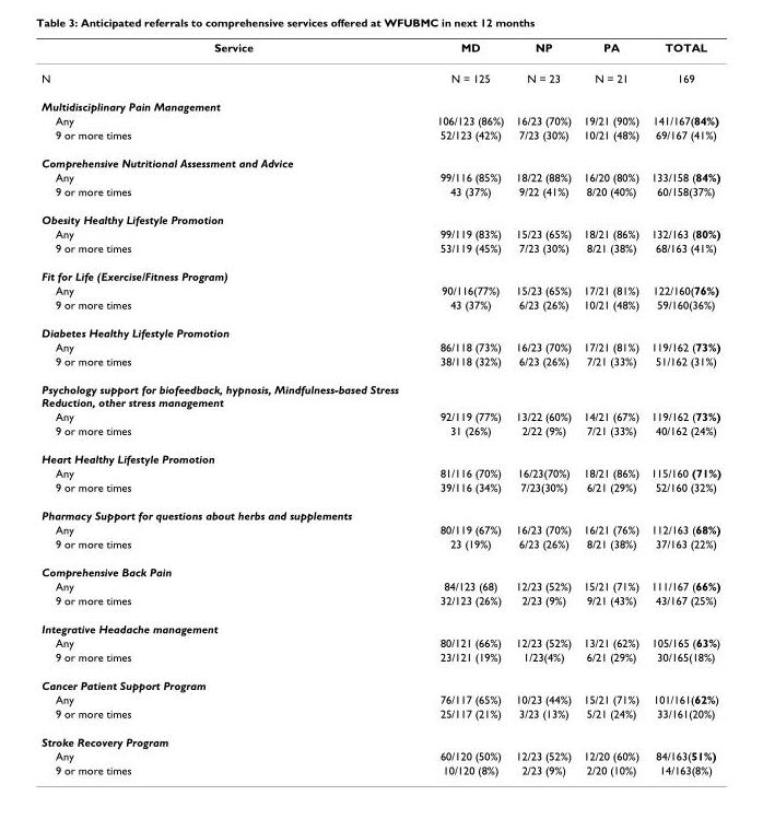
<table><thead><tr><td>Service</td><td>MD</td><td>NP</td><td>PA</td><td>TOTAL</td></tr></thead><tbody><tr><td>N</td><td>N = 125</td><td>N = 23</td><td>N = 21</td><td>169</td></tr><tr><td colspan="5">Multidisciplinary Pain Management</td></tr><tr><td>Any</td><td>106/123 (86%)</td><td>16/23 (70%)</td><td>19/21 (90%)</td><td>141/167(84%)</td></tr><tr><td>9 or more times</td><td>52/123 (42%)</td><td>7/23 (30%)</td><td>10/21 (48%)</td><td>69/167 (41%)</td></tr><tr><td colspan="5">Comprehensive Nutritional Assessment and Advice</td></tr><tr><td>Any</td><td>99/116 (85%)</td><td>18/22 (88%)</td><td>16/20 (80%)</td><td>133/158 (84%)</td></tr><tr><td>9 or more times</td><td>43 (37%)</td><td>9/22 (41%)</td><td>8/20 (40%)</td><td>60/158(37%)</td></tr><tr><td colspan="5">Obesity Healthy Lifestyle Promotion</td></tr><tr><td>Any</td><td>99/119 (83%)</td><td>15/23 (65%)</td><td>18/21 (86%)</td><td>132/163 (80%)</td></tr><tr><td>9 or more times</td><td>53/119 (45%)</td><td>7/23 (30%)</td><td>8/21 (38%)</td><td>68/163 (41%)</td></tr><tr><td colspan="5">Fit for Life (Exercise/Fitness Program)</td></tr><tr><td>Any</td><td>90/116(77%)</td><td>15/23 (65%)</td><td>17/21 (81%)</td><td>122/160(76%)</td></tr><tr><td>9 or more times</td><td>43 (37%)</td><td>6/23 (26%)</td><td>10/21 (48%)</td><td>59/160(36%)</td></tr><tr><td colspan="5">Diabetes Healthy Lifestyle Promotion</td></tr><tr><td>Any</td><td>86/118 (73%)</td><td>16/23 (70%)</td><td>17/21 (81%)</td><td>119/162 (73%)</td></tr><tr><td>9 or more times</td><td>38/118 (32%)</td><td>6/23 (26%)</td><td>7/21 (33%)</td><td>51/162 (31%)</td></tr><tr><td colspan="5">Psychology support for biofeedback, hypnosis, Mindfulness-based Stress Reduction, other stress management</td></tr><tr><td>Any</td><td>92/119 (77%)</td><td>13/22 (60%)</td><td>14/21 (67%)</td><td>119/162 (73%)</td></tr><tr><td>9 or more times</td><td>31 (26%)</td><td>2/22 (9%)</td><td>7/21 (33%)</td><td>40/162 (24%)</td></tr><tr><td colspan="5">Heart Healthy Lifestyle Promotion</td></tr><tr><td>Any</td><td>81/116 (70%)</td><td>16/23(70%)</td><td>18/21 (86%)</td><td>115/160 (71%)</td></tr><tr><td>9 or more times</td><td>39/116 (34%)</td><td>7/23(30%)</td><td>6/21 (29%)</td><td>52/160 (32%)</td></tr><tr><td colspan="5">Pharmacy Support for questions about herbs and supplements</td></tr><tr><td>Any</td><td>80/119 (67%)</td><td>16/23 (70%)</td><td>16/21 (76%)</td><td>112/163 (68%)</td></tr><tr><td>9 or more times</td><td>23 (19%)</td><td>6/23 (26%)</td><td>8/21 (38%)</td><td>37/163 (22%)</td></tr><tr><td colspan="5">Comprehensive Back Pain</td></tr><tr><td>Any</td><td>84/123 (68)</td><td>12/23 (52%)</td><td>15/21 (71%)</td><td>111/167 (66%)</td></tr><tr><td>9 or more times</td><td>32/123 (26%)</td><td>2/23 (9%)</td><td>9/21 (43%)</td><td>43/167 (25%)</td></tr><tr><td colspan="5">Integrative Headache management</td></tr><tr><td>Any</td><td>80/121 (66%)</td><td>12/23 (52%)</td><td>13/21 (62%)</td><td>105/165 (63%)</td></tr><tr><td>9 or more times</td><td>23/121 (19%)</td><td>1/23(4%)</td><td>6/21 (29%)</td><td>30/165(18%)</td></tr><tr><td colspan="5">Cancer Patient Support Program</td></tr><tr><td>Any</td><td>76/117 (65%)</td><td>10/23 (44%)</td><td>15/21 (71%)</td><td>101/161(62%)</td></tr><tr><td>9 or more times</td><td>25/117 (21%)</td><td>3/23 (13%)</td><td>5/21 (24%)</td><td>33/161(20%)</td></tr><tr><td colspan="5">Stroke Recovery Program</td></tr><tr><td>Any</td><td>60/120 (50%)</td><td>12/23 (52%)</td><td>12/20 (60%)</td><td>84/163(51%)</td></tr><tr><td>9 or more times</td><td>10/120 (8%)</td><td>2/23 (9%)</td><td>2/20 (10%)</td><td>14/163(8%)</td></tr></tbody></table>